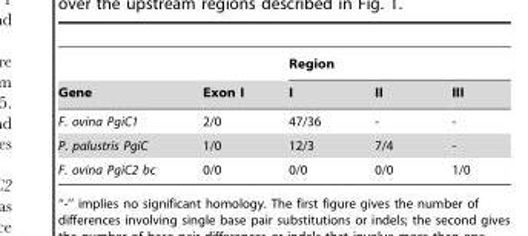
<table><thead><tr><td rowspan="2">Gene</td><td rowspan="2">Exon I</td><td colspan="3">Region</td></tr><tr><td>I</td><td>II</td><td>III</td></tr></thead><tbody><tr><td>F. ovina PgiC1</td><td>2/0</td><td>47/36</td><td>-</td><td>-</td></tr><tr><td>P. palustris PgiC</td><td>1/0</td><td>12/3</td><td>7/4</td><td>-</td></tr><tr><td>F. ovina PgiC2 bc</td><td>0/0</td><td>0/0</td><td>0/0</td><td>1/0</td></tr></tbody></table>